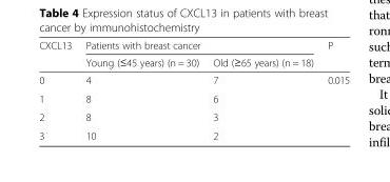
<table><thead><tr><td rowspan="2">CXCL13</td><td colspan="2">Patients with breast cancer</td><td rowspan="2">P</td></tr><tr><td>Young (≤45 years) (n = 30)</td><td>Old (≥65 years) (n = 18)</td></tr></thead><tbody><tr><td>0</td><td>4</td><td>7</td><td>0.015</td></tr><tr><td>1</td><td>8</td><td>6</td><td></td></tr><tr><td>2</td><td>8</td><td>3</td><td></td></tr><tr><td>3</td><td>10</td><td>2</td><td></td></tr></tbody></table>